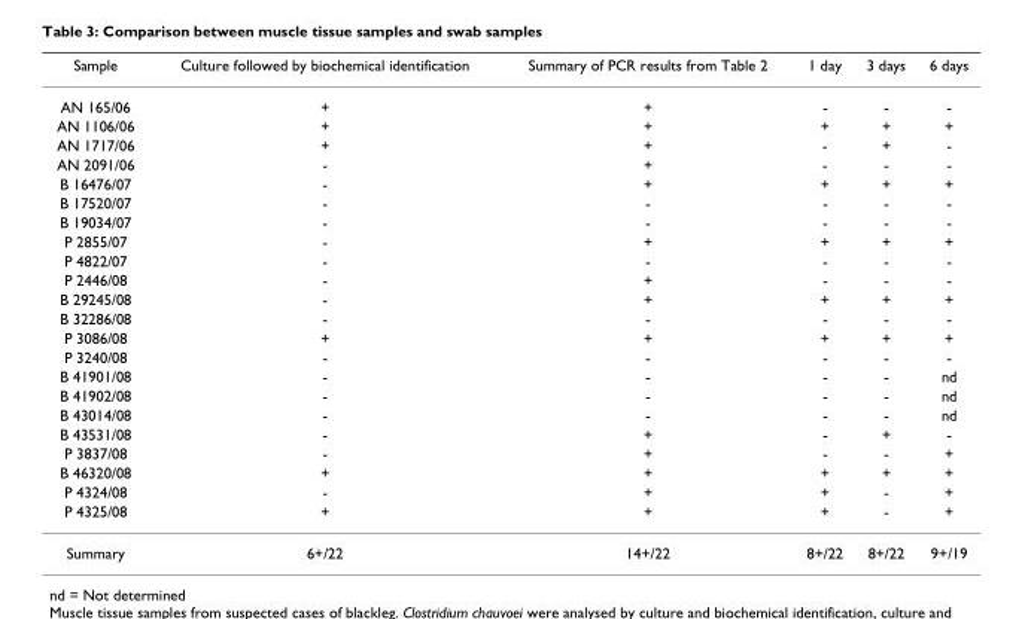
<table><thead><tr><td>Sample</td><td>Culture followed by biochemical identification</td><td>Summary of PCR results from Table 2</td><td>1 day</td><td>3 days</td><td>6 days</td></tr></thead><tbody><tr><td>AN 165/06</td><td>+</td><td>+</td><td>-</td><td>-</td><td>-</td></tr><tr><td>AN 1106/06</td><td>+</td><td>+</td><td>+</td><td>+</td><td>+</td></tr><tr><td>AN 1717/06</td><td>+</td><td>+</td><td>-</td><td>+</td><td>-</td></tr><tr><td>AN 2091/06</td><td>-</td><td>+</td><td>-</td><td>-</td><td>-</td></tr><tr><td>B 16476/07</td><td>-</td><td>+</td><td>+</td><td>+</td><td>+</td></tr><tr><td>B 17520/07</td><td>-</td><td>-</td><td>-</td><td>-</td><td>-</td></tr><tr><td>B 19034/07</td><td>-</td><td>-</td><td>-</td><td>-</td><td>-</td></tr><tr><td>P 2855/07</td><td>-</td><td>+</td><td>+</td><td>+</td><td>+</td></tr><tr><td>P 4822/07</td><td>-</td><td>-</td><td>-</td><td>-</td><td>-</td></tr><tr><td>P 2446/08</td><td>-</td><td>+</td><td>-</td><td>-</td><td>-</td></tr><tr><td>B 29245/08</td><td>-</td><td>+</td><td>+</td><td>+</td><td>+</td></tr><tr><td>B 32286/08</td><td>-</td><td>-</td><td>-</td><td>-</td><td>-</td></tr><tr><td>P 3086/08</td><td>+</td><td>+</td><td>+</td><td>+</td><td>+</td></tr><tr><td>P 3240/08</td><td>-</td><td>-</td><td>-</td><td>-</td><td>-</td></tr><tr><td>B 41901/08</td><td>-</td><td>-</td><td>-</td><td>-</td><td>nd</td></tr><tr><td>B 41902/08</td><td>-</td><td>-</td><td>-</td><td>-</td><td>nd</td></tr><tr><td>B 43014/08</td><td>-</td><td>-</td><td>-</td><td>-</td><td>nd</td></tr><tr><td>B 43531/08</td><td>-</td><td>+</td><td>-</td><td>+</td><td>-</td></tr><tr><td>P 3837/08</td><td>-</td><td>+</td><td>-</td><td>-</td><td>+</td></tr><tr><td>B 46320/08</td><td>+</td><td>+</td><td>+</td><td>+</td><td>+</td></tr><tr><td>P 4324/08</td><td>-</td><td>+</td><td>+</td><td>-</td><td>+</td></tr><tr><td>P 4325/08</td><td>+</td><td>+</td><td>+</td><td>-</td><td>+</td></tr><tr><td>Summary</td><td>6+/22</td><td>14+/22</td><td>8+/22</td><td>8+/22</td><td>9+/19</td></tr></tbody></table>